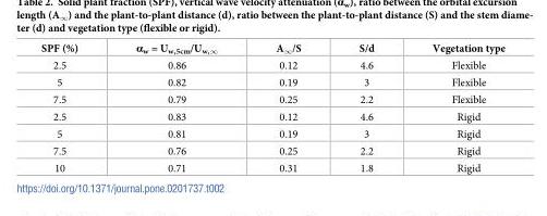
<table><thead><tr><td>SPF (%)</td><td>α<sub>w</sub> = U<sub>w,5cm</sub>/U<sub>w,∞</sub></td><td>A<sub>∞</sub>/S</td><td>S/d</td><td>Vegetation type</td></tr></thead><tbody><tr><td>2.5</td><td>0.86</td><td>0.12</td><td>4.6</td><td>Flexible</td></tr><tr><td>5</td><td>0.82</td><td>0.19</td><td>3</td><td>Flexible</td></tr><tr><td>7.5</td><td>0.79</td><td>0.25</td><td>2.2</td><td>Flexible</td></tr><tr><td>2.5</td><td>0.83</td><td>0.12</td><td>4.6</td><td>Rigid</td></tr><tr><td>5</td><td>0.81</td><td>0.19</td><td>3</td><td>Rigid</td></tr><tr><td>7.5</td><td>0.76</td><td>0.25</td><td>2.2</td><td>Rigid</td></tr><tr><td>10</td><td>0.71</td><td>0.31</td><td>1.8</td><td>Rigid</td></tr></tbody></table>